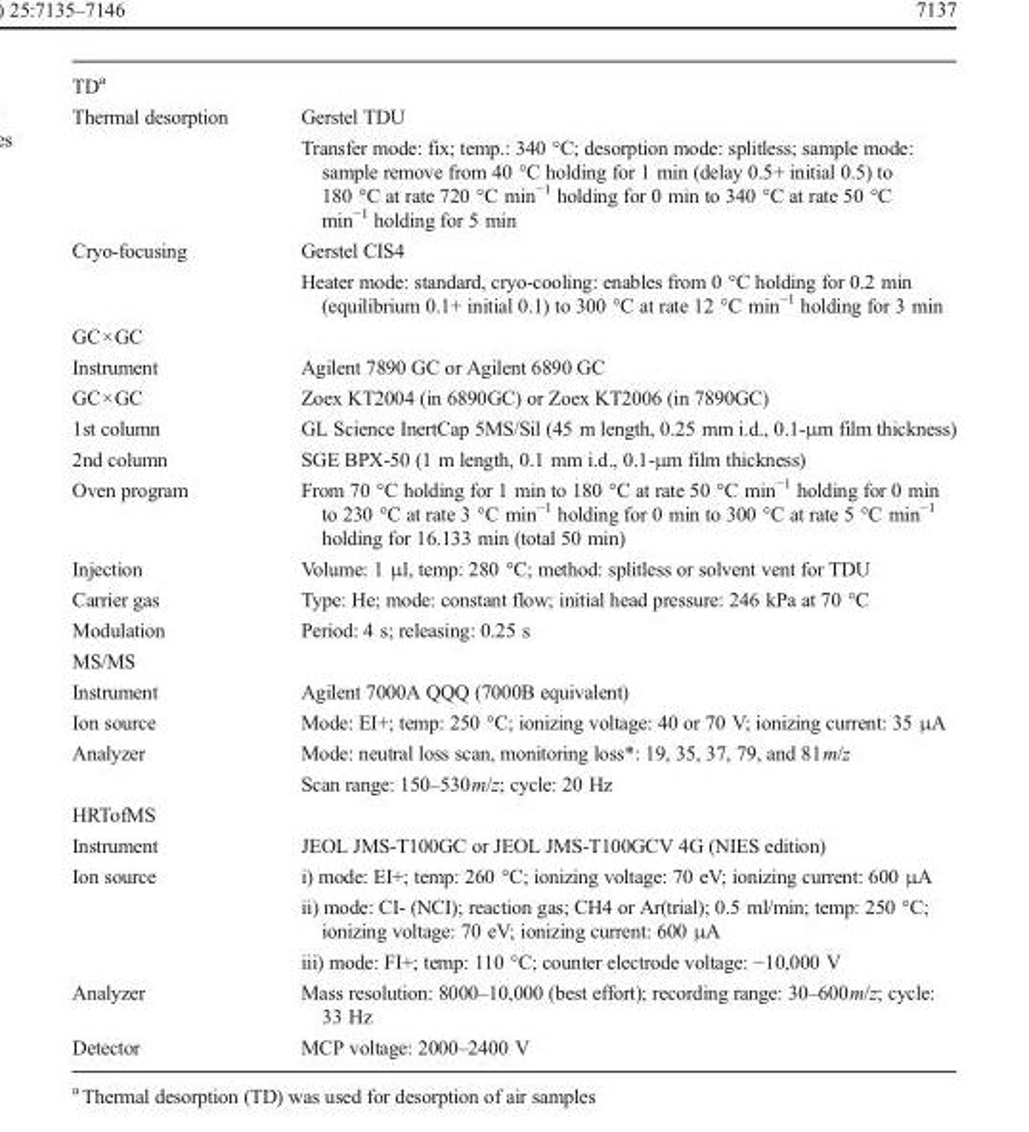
<table><tbody><tr><td colspan="2">TD<sup>a</sup></td></tr><tr><td>Thermal desorption</td><td>Gerstel TDU Transfer mode: fix; temp.: 340 °C; desorption mode: splitless; sample mode: sample remove from 40 °C holding for 1 min (delay 0.5+ initial 0.5) to 180 °C at rate 720 °C min<sup>−1</sup> holding for 0 min to 340 °C at rate 50 °C min<sup>−1</sup> holding for 5 min</td></tr><tr><td>Cryo-focusing</td><td>Gerstel CIS4 Heater mode: standard, cryo-cooling: enables from 0 °C holding for 0.2 min (equilibrium 0.1+ initial 0.1) to 300 °C at rate 12 °C min<sup>−1</sup> holding for 3 min</td></tr><tr><td colspan="2">GC×GC</td></tr><tr><td>Instrument</td><td>Agilent 7890 GC or Agilent 6890 GC</td></tr><tr><td>GC×GC</td><td>Zoex KT2004 (in 6890GC) or Zoex KT2006 (in 7890GC)</td></tr><tr><td>1st column</td><td>GL Science InertCap 5MS/Sil (45 m length, 0.25 mm i.d., 0.1-μm film thickness)</td></tr><tr><td>2nd column</td><td>SGE BPX-50 (1 m length, 0.1 mm i.d., 0.1-μm film thickness)</td></tr><tr><td>Oven program</td><td>From 70 °C holding for 1 min to 180 °C at rate 50 °C min<sup>−1</sup> holding for 0 min to 230 °C at rate 3 °C min<sup>−1</sup> holding for 0 min to 300 °C at rate 5 °C min<sup>−1</sup> holding for 16.133 min (total 50 min)</td></tr><tr><td>Injection</td><td>Volume: 1 μl, temp: 280 °C; method: splitless or solvent vent for TDU</td></tr><tr><td>Carrier gas</td><td>Type: He; mode: constant flow; initial head pressure: 246 kPa at 70 °C</td></tr><tr><td>Modulation</td><td>Period: 4 s; releasing: 0.25 s</td></tr><tr><td colspan="2">MS/MS</td></tr><tr><td>Instrument</td><td>Agilent 7000A QQQ (7000B equivalent)</td></tr><tr><td>Ion source</td><td>Mode: EI+; temp: 250 °C; ionizing voltage: 40 or 70 V; ionizing current: 35 μA</td></tr><tr><td>Analyzer</td><td>Mode: neutral loss scan, monitoring loss*: 19, 35, 37, 79, and 81m/z Scan range: 150–530m/z; cycle: 20 Hz</td></tr><tr><td colspan="2">HRTofMS</td></tr><tr><td>Instrument</td><td>JEOL JMS-T100GC or JEOL JMS-T100GCV 4G (NIES edition)</td></tr><tr><td rowspan="3">Ion source</td><td>i) mode: EI+; temp: 260 °C; ionizing voltage: 70 eV; ionizing current: 600 μA</td></tr><tr><td>ii) mode: CI- (NCI); reaction gas; CH4 or Ar(trial); 0.5 ml/min; temp: 250 °C; ionizing voltage: 70 eV; ionizing current: 600 μA</td></tr><tr><td>iii) mode: FI+; temp: 110 °C; counter electrode voltage: −10,000 V</td></tr><tr><td>Analyzer</td><td>Mass resolution: 8000–10,000 (best effort); recording range: 30–600m/z; cycle: 33 Hz</td></tr><tr><td>Detector</td><td>MCP voltage: 2000–2400 V</td></tr></tbody></table>